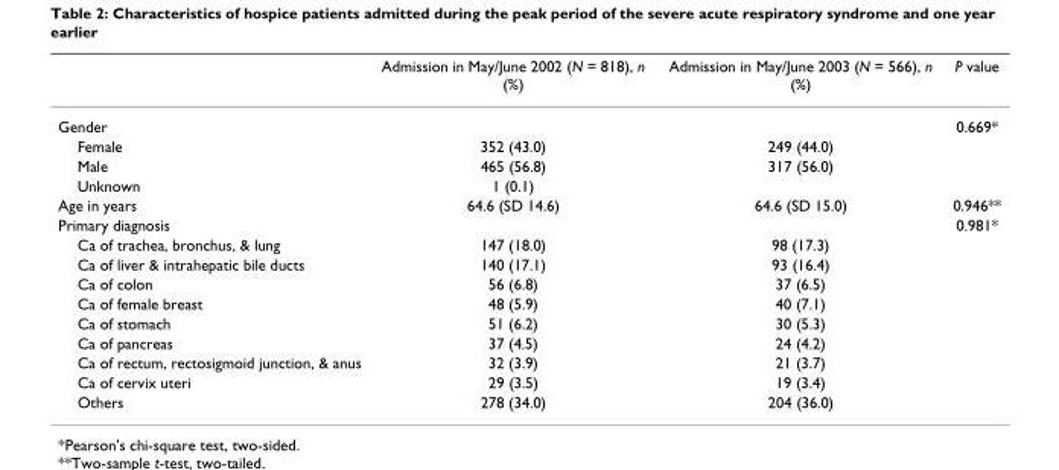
<table><thead><tr><td></td><td>Admission in May/June 2002 (N = 818), n (%)</td><td>Admission in May/June 2003 (N = 566), n (%)</td><td>P value</td></tr></thead><tbody><tr><td>Gender</td><td></td><td></td><td>0.669*</td></tr><tr><td>Female</td><td>352 (43.0)</td><td>249 (44.0)</td><td></td></tr><tr><td>Male</td><td>465 (56.8)</td><td>317 (56.0)</td><td></td></tr><tr><td>Unknown</td><td>1 (0.1)</td><td></td><td></td></tr><tr><td>Age in years</td><td>64.6 (SD 14.6)</td><td>64.6 (SD 15.0)</td><td>0.946**</td></tr><tr><td>Primary diagnosis</td><td></td><td></td><td>0.981*</td></tr><tr><td>Ca of trachea, bronchus, &amp; lung</td><td>147 (18.0)</td><td>98 (17.3)</td><td></td></tr><tr><td>Ca of liver &amp; intrahepatic bile ducts</td><td>140 (17.1)</td><td>93 (16.4)</td><td></td></tr><tr><td>Ca of colon</td><td>56 (6.8)</td><td>37 (6.5)</td><td></td></tr><tr><td>Ca of female breast</td><td>48 (5.9)</td><td>40 (7.1)</td><td></td></tr><tr><td>Ca of stomach</td><td>51 (6.2)</td><td>30 (5.3)</td><td></td></tr><tr><td>Ca of pancreas</td><td>37 (4.5)</td><td>24 (4.2)</td><td></td></tr><tr><td>Ca of rectum, rectosigmoid junction, &amp; anus</td><td>32 (3.9)</td><td>21 (3.7)</td><td></td></tr><tr><td>Ca of cervix uteri</td><td>29 (3.5)</td><td>19 (3.4)</td><td></td></tr><tr><td>Others</td><td>278 (34.0)</td><td>204 (36.0)</td><td></td></tr></tbody></table>